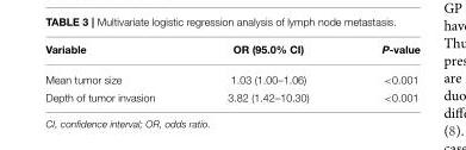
<table><thead><tr><td>Variable</td><td>OR (95.0% CI)</td><td>P-value</td></tr></thead><tbody><tr><td>Mean tumor size</td><td>1.03 (1.00–1.06)</td><td>&lt;0.001</td></tr><tr><td>Depth of tumor invasion</td><td>3.82 (1.42–10.30)</td><td>&lt;0.001</td></tr></tbody></table>